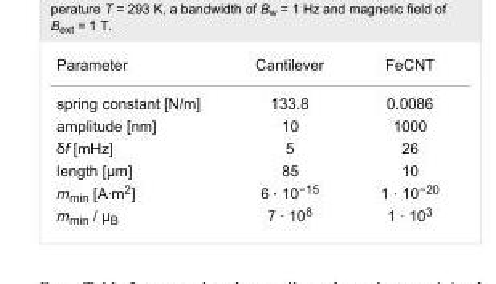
<table><tbody><tr><td>Parameter</td><td>Cantilever</td><td>FeCNT</td></tr><tr><td>spring constant [N/m]</td><td>133.8</td><td>0.0086</td></tr><tr><td>amplitude [nm]</td><td>10</td><td>1000</td></tr><tr><td>δf [mHz]</td><td>5</td><td>26</td></tr><tr><td>length [μm]</td><td>85</td><td>10</td></tr><tr><td>m<sub>min</sub> [A·m<sup>2</sup>]</td><td>6 · 10<sup>−15</sup></td><td>1 · 10<sup>−20</sup></td></tr><tr><td>m<sub>min</sub> / μ<sub>B</sub></td><td>7 · 10<sup>8</sup></td><td>1 · 10<sup>3</sup></td></tr></tbody></table>